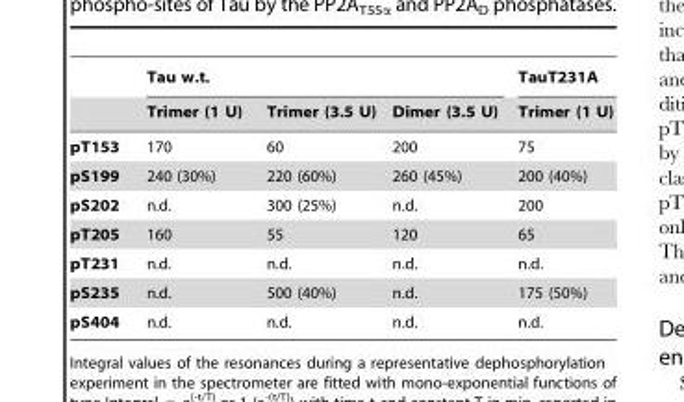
<table><thead><tr><td rowspan="2"></td><td colspan="3">Tau w.t.</td><td rowspan="2">TauT231A Trimer (1 U)</td></tr><tr><td>Trimer (1 U)</td><td>Trimer (3.5 U)</td><td>Dimer (3.5 U)</td></tr></thead><tbody><tr><td>pT153</td><td>170</td><td>60</td><td>200</td><td>75</td></tr><tr><td>pS199</td><td>240 (30%)</td><td>220 (60%)</td><td>260 (45%)</td><td>200 (40%)</td></tr><tr><td>pS202</td><td>n.d.</td><td>300 (25%)</td><td>n.d.</td><td>200</td></tr><tr><td>pT205</td><td>160</td><td>55</td><td>120</td><td>65</td></tr><tr><td>pT231</td><td>n.d.</td><td>n.d.</td><td>n.d.</td><td>n.d.</td></tr><tr><td>pS235</td><td>n.d.</td><td>500 (40%)</td><td>n.d.</td><td>175 (50%)</td></tr><tr><td>pS404</td><td>n.d.</td><td>n.d.</td><td>n.d.</td><td>n.d.</td></tr></tbody></table>